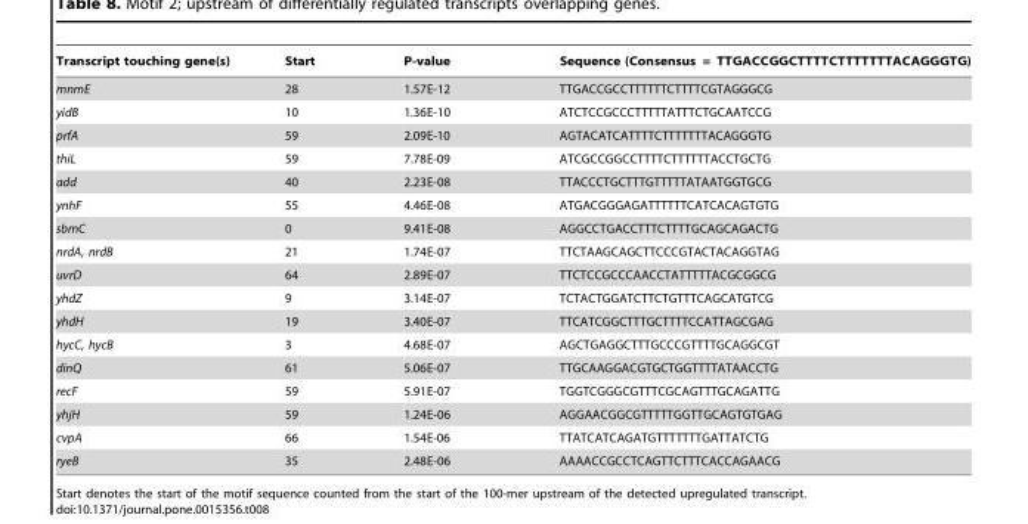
<table><thead><tr><td>Transcript touching gene(s)</td><td>Start</td><td>P-value</td><td>Sequence (Consensus = TTGACCGGCTTTTCTTTTTTTACAGGGTG)</td></tr></thead><tbody><tr><td>mnmE</td><td>28</td><td>1.57E-12</td><td>TTGACCGCCTTTTTTCTTTTCGTAGGGCG</td></tr><tr><td>yidB</td><td>10</td><td>1.36E-10</td><td>ATCTCCGCCCTTTTTATTTCTGCAATCCG</td></tr><tr><td>prfA</td><td>59</td><td>2.09E-10</td><td>AGTACATCATTTTCTTTTTTTACAGGGTG</td></tr><tr><td>thiL</td><td>59</td><td>7.78E-09</td><td>ATCGCCGGCCTTTTCTTTTTTACCTGCTG</td></tr><tr><td>add</td><td>40</td><td>2.23E-08</td><td>TTACCCTGCTTTGTTTTTATAATGGTGCG</td></tr><tr><td>ynhF</td><td>55</td><td>4.46E-08</td><td>ATGACGGGAGATTTTTTCATCACAGTGTG</td></tr><tr><td>sbmC</td><td>0</td><td>9.41E-08</td><td>AGGCCTGACCTTTCTTTTGCAGCAGACTG</td></tr><tr><td>nrdA, nrdB</td><td>21</td><td>1.74E-07</td><td>TTCTAAGCAGCTTCCCGTACTACAGGTAG</td></tr><tr><td>uvrD</td><td>64</td><td>2.89E-07</td><td>TTCTCCGCCCAACCTATTTTTACGCGGCG</td></tr><tr><td>yhdZ</td><td>9</td><td>3.14E-07</td><td>TCTACTGGATCTTCTGTTTCAGCATGTCG</td></tr><tr><td>yhdH</td><td>19</td><td>3.40E-07</td><td>TTCATCGGCTTTGCTTTTCCATTAGCGAG</td></tr><tr><td>hycC, hycB</td><td>3</td><td>4.68E-07</td><td>AGCTGAGGCTTTGCCCGTTTTGCAGGCGT</td></tr><tr><td>dinQ</td><td>61</td><td>5.06E-07</td><td>TTGCAAGGACGTGCTGGTTTTATAACCTG</td></tr><tr><td>recF</td><td>59</td><td>5.91E-07</td><td>TGGTCGGGCGTTTCGCAGTTTGCAGATTG</td></tr><tr><td>yhjH</td><td>59</td><td>1.24E-06</td><td>AGGAACGGCGTTTTTGGTTGCAGTGTGAG</td></tr><tr><td>cvpA</td><td>66</td><td>1.54E-06</td><td>TTATCATCAGATGTTTTTTTGATTATCTG</td></tr><tr><td>ryeB</td><td>35</td><td>2.48E-06</td><td>AAAACCGCCTCAGTTCTTTCACCAGAACG</td></tr></tbody></table>